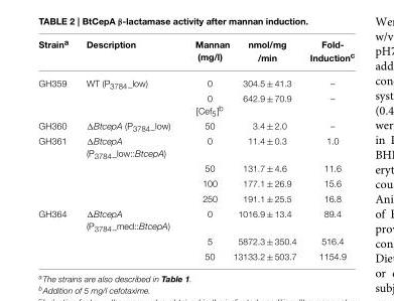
<table><thead><tr><td>Strain<sup>a</sup></td><td>Description</td><td>Mannan (mg/l)</td><td>nmol/mg /min</td><td>Fold- Induction<sup>c</sup></td></tr></thead><tbody><tr><td rowspan="2">GH359</td><td>WT (P3784_low)</td><td>0</td><td>304.5 ± 41.3</td><td>–</td></tr><tr><td></td><td>0 [Cef<sub>5</sub>]<sup>b</sup></td><td>642.9 ± 70.9</td><td>–</td></tr><tr><td>GH360</td><td>ΔBtcepA (P3784_low)</td><td>50</td><td>3.4 ± 2.0</td><td>–</td></tr><tr><td rowspan="4">GH361</td><td>ΔBtcepA (P3784_low::BtcepA)</td><td>0</td><td>11.4 ± 0.3</td><td>1.0</td></tr><tr><td></td><td>50</td><td>131.7 ± 4.6</td><td>11.6</td></tr><tr><td></td><td>100</td><td>177.1 ± 26.9</td><td>15.6</td></tr><tr><td></td><td>250</td><td>191.1 ± 25.5</td><td>16.8</td></tr><tr><td rowspan="3">GH364</td><td>ΔBtcepA (P3784_med::BtcepA)</td><td>0</td><td>1016.9 ± 13.4</td><td>89.4</td></tr><tr><td></td><td>5</td><td>5872.3 ± 350.4</td><td>516.4</td></tr><tr><td></td><td>50</td><td>13133.2 ± 503.7</td><td>1154.9</td></tr></tbody></table>